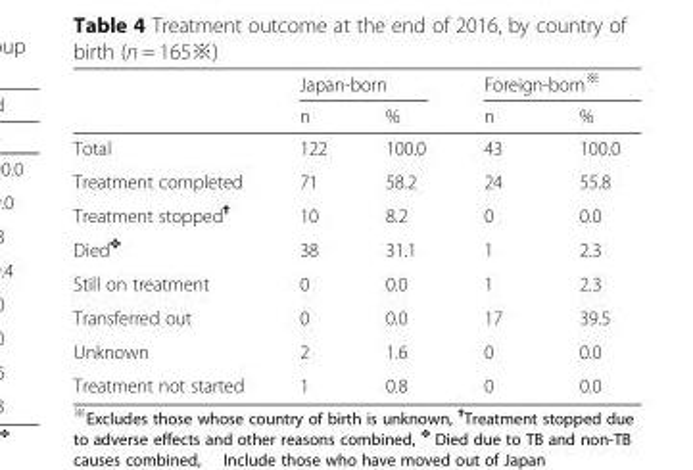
<table><thead><tr><td rowspan="2"></td><td colspan="2">Japan-born</td><td colspan="2">Foreign-born<sup>※</sup></td></tr><tr><td>n</td><td>%</td><td>n</td><td>%</td></tr></thead><tbody><tr><td>Total</td><td>122</td><td>100.0</td><td>43</td><td>100.0</td></tr><tr><td>Treatment completed</td><td>71</td><td>58.2</td><td>24</td><td>55.8</td></tr><tr><td>Treatment stopped<sup>✝</sup></td><td>10</td><td>8.2</td><td>0</td><td>0.0</td></tr><tr><td>Died<sup>✜</sup></td><td>38</td><td>31.1</td><td>1</td><td>2.3</td></tr><tr><td>Still on treatment</td><td>0</td><td>0.0</td><td>1</td><td>2.3</td></tr><tr><td>Transferred out</td><td>0</td><td>0.0</td><td>17</td><td>39.5</td></tr><tr><td>Unknown</td><td>2</td><td>1.6</td><td>0</td><td>0.0</td></tr><tr><td>Treatment not started</td><td>1</td><td>0.8</td><td>0</td><td>0.0</td></tr></tbody></table>